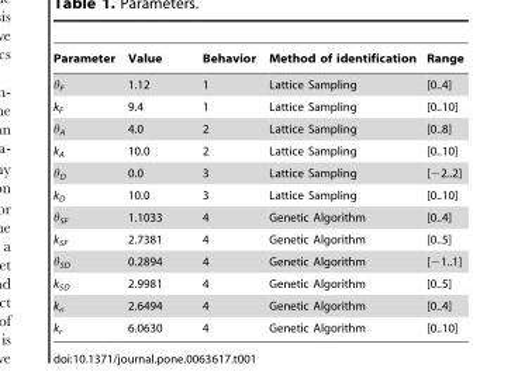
<table><thead><tr><td>Parameter</td><td>Value</td><td>Behavior</td><td>Method of identification</td><td>Range</td></tr></thead><tbody><tr><td>θ<sub>F</sub></td><td>1.12</td><td>1</td><td>Lattice Sampling</td><td>[0..4]</td></tr><tr><td>k<sub>F</sub></td><td>9.4</td><td>1</td><td>Lattice Sampling</td><td>[0..10]</td></tr><tr><td>θ<sub>A</sub></td><td>4.0</td><td>2</td><td>Lattice Sampling</td><td>[0..8]</td></tr><tr><td>k<sub>A</sub></td><td>10.0</td><td>2</td><td>Lattice Sampling</td><td>[0..10]</td></tr><tr><td>θ<sub>D</sub></td><td>0.0</td><td>3</td><td>Lattice Sampling</td><td>[−2..2]</td></tr><tr><td>k<sub>D</sub></td><td>10.0</td><td>3</td><td>Lattice Sampling</td><td>[0..10]</td></tr><tr><td>θ<sub>SF</sub></td><td>1.1033</td><td>4</td><td>Genetic Algorithm</td><td>[0..4]</td></tr><tr><td>k<sub>SF</sub></td><td>2.7381</td><td>4</td><td>Genetic Algorithm</td><td>[0..5]</td></tr><tr><td>θ<sub>SD</sub></td><td>0.2894</td><td>4</td><td>Genetic Algorithm</td><td>[−1..1]</td></tr><tr><td>k<sub>SD</sub></td><td>2.9981</td><td>4</td><td>Genetic Algorithm</td><td>[0..5]</td></tr><tr><td>k<sub>σ</sub></td><td>2.6494</td><td>4</td><td>Genetic Algorithm</td><td>[0..4]</td></tr><tr><td>k<sub>r</sub></td><td>6.0630</td><td>4</td><td>Genetic Algorithm</td><td>[0..10]</td></tr></tbody></table>